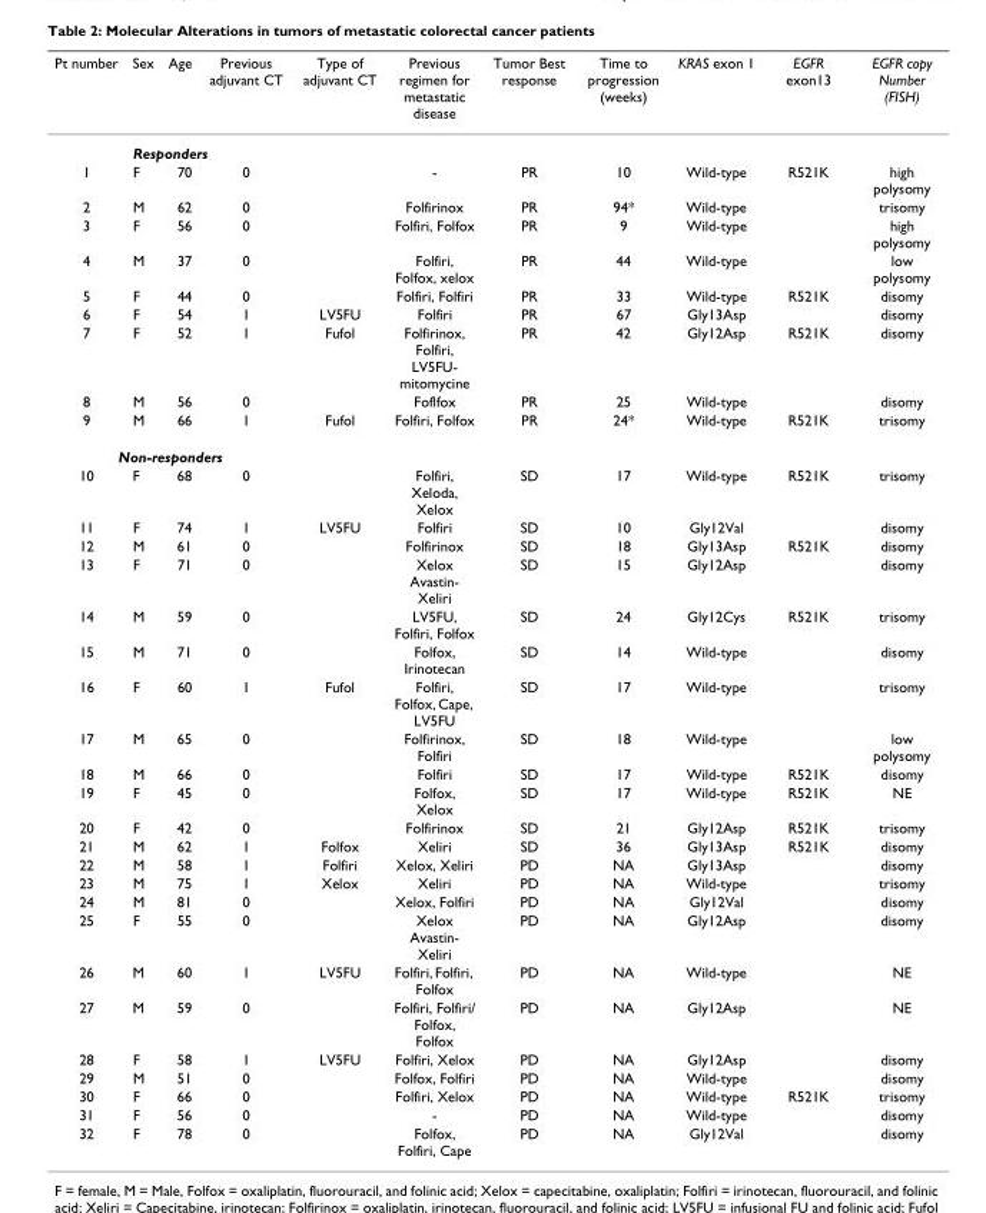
<table><thead><tr><td>Pt number</td><td>Sex</td><td>Age</td><td>Previous adjuvant CT</td><td>Type of adjuvant CT</td><td>Previous regimen for metastatic disease</td><td>Tumor Best response</td><td>Time to progression (weeks)</td><td>KRAS exon 1</td><td>EGFR exon13</td><td>EGFR copy Number (FISH)</td></tr></thead><tbody><tr><td colspan="11">Responders</td></tr><tr><td>1</td><td>F</td><td>70</td><td>0</td><td></td><td>-</td><td>PR</td><td>10</td><td>Wild-type</td><td>R521K</td><td>high polysomy</td></tr><tr><td>2</td><td>M</td><td>62</td><td>0</td><td></td><td>Folfirinox</td><td>PR</td><td>94*</td><td>Wild-type</td><td></td><td>trisomy</td></tr><tr><td>3</td><td>F</td><td>56</td><td>0</td><td></td><td>Folfiri, Folfox</td><td>PR</td><td>9</td><td>Wild-type</td><td></td><td>high polysomy</td></tr><tr><td>4</td><td>M</td><td>37</td><td>0</td><td></td><td>Folfiri, Folfox, xelox</td><td>PR</td><td>44</td><td>Wild-type</td><td></td><td>low polysomy</td></tr><tr><td>5</td><td>F</td><td>44</td><td>0</td><td></td><td>Folfiri, Folfiri</td><td>PR</td><td>33</td><td>Wild-type</td><td>R521K</td><td>disomy</td></tr><tr><td>6</td><td>F</td><td>54</td><td>1</td><td>LV5FU</td><td>Folfiri</td><td>PR</td><td>67</td><td>Gly13Asp</td><td></td><td>disomy</td></tr><tr><td>7</td><td>F</td><td>52</td><td>1</td><td>Fufol</td><td>Folfirinox, Folfiri, LV5FU- mitomycine</td><td>PR</td><td>42</td><td>Gly12Asp</td><td>R521K</td><td>disomy</td></tr><tr><td>8</td><td>M</td><td>56</td><td>0</td><td></td><td>Foflfox</td><td>PR</td><td>25</td><td>Wild-type</td><td></td><td>disomy</td></tr><tr><td>9</td><td>M</td><td>66</td><td>1</td><td>Fufol</td><td>Folfiri, Folfox</td><td>PR</td><td>24*</td><td>Wild-type</td><td>R521K</td><td>trisomy</td></tr><tr><td colspan="11">Non-responders</td></tr><tr><td>10</td><td>F</td><td>68</td><td>0</td><td></td><td>Folfiri, Xeloda, Xelox</td><td>SD</td><td>17</td><td>Wild-type</td><td>R521K</td><td>trisomy</td></tr><tr><td>11</td><td>F</td><td>74</td><td>1</td><td>LV5FU</td><td>Folfiri</td><td>SD</td><td>10</td><td>Gly12Val</td><td></td><td>disomy</td></tr><tr><td>12</td><td>M</td><td>61</td><td>0</td><td></td><td>Folfirinox</td><td>SD</td><td>18</td><td>Gly13Asp</td><td>R521K</td><td>disomy</td></tr><tr><td>13</td><td>F</td><td>71</td><td>0</td><td></td><td>Xelox Avastin- Xeliri</td><td>SD</td><td>15</td><td>Gly12Asp</td><td></td><td>disomy</td></tr><tr><td>14</td><td>M</td><td>59</td><td>0</td><td></td><td>LV5FU, Folfiri, Folfox</td><td>SD</td><td>24</td><td>Gly12Cys</td><td>R521K</td><td>trisomy</td></tr><tr><td>15</td><td>M</td><td>71</td><td>0</td><td></td><td>Folfox, Irinotecan</td><td>SD</td><td>14</td><td>Wild-type</td><td></td><td>disomy</td></tr><tr><td>16</td><td>F</td><td>60</td><td>1</td><td>Fufol</td><td>Folfiri, Folfox, Cape, LV5FU</td><td>SD</td><td>17</td><td>Wild-type</td><td></td><td>trisomy</td></tr><tr><td>17</td><td>M</td><td>65</td><td>0</td><td></td><td>Folfirinox, Folfiri</td><td>SD</td><td>18</td><td>Wild-type</td><td></td><td>low polysomy</td></tr><tr><td>18</td><td>M</td><td>66</td><td>0</td><td></td><td>Folfiri</td><td>SD</td><td>17</td><td>Wild-type</td><td>R521K</td><td>disomy</td></tr><tr><td>19</td><td>F</td><td>45</td><td>0</td><td></td><td>Folfox, Xelox</td><td>SD</td><td>17</td><td>Wild-type</td><td>R521K</td><td>NE</td></tr><tr><td>20</td><td>F</td><td>42</td><td>0</td><td></td><td>Folfirinox</td><td>SD</td><td>21</td><td>Gly12Asp</td><td>R521K</td><td>trisomy</td></tr><tr><td>21</td><td>M</td><td>62</td><td>1</td><td>Folfox</td><td>Xeliri</td><td>SD</td><td>36</td><td>Gly13Asp</td><td>R521K</td><td>disomy</td></tr><tr><td>22</td><td>M</td><td>58</td><td>1</td><td>Folfiri</td><td>Xelox, Xeliri</td><td>PD</td><td>NA</td><td>Gly13Asp</td><td></td><td>disomy</td></tr><tr><td>23</td><td>M</td><td>75</td><td>1</td><td>Xelox</td><td>Xeliri</td><td>PD</td><td>NA</td><td>Wild-type</td><td></td><td>trisomy</td></tr><tr><td>24</td><td>M</td><td>81</td><td>0</td><td></td><td>Xelox, Folfiri</td><td>PD</td><td>NA</td><td>Gly12Val</td><td></td><td>disomy</td></tr><tr><td>25</td><td>F</td><td>55</td><td>0</td><td></td><td>Xelox Avastin- Xeliri</td><td>PD</td><td>NA</td><td>Gly12Asp</td><td></td><td>disomy</td></tr><tr><td>26</td><td>M</td><td>60</td><td>1</td><td>LV5FU</td><td>Folfiri, Folfiri, Folfox</td><td>PD</td><td>NA</td><td>Wild-type</td><td></td><td>NE</td></tr><tr><td>27</td><td>M</td><td>59</td><td>0</td><td></td><td>Folfiri, Folfiri/ Folfox, Folfox</td><td>PD</td><td>NA</td><td>Gly12Asp</td><td></td><td>NE</td></tr><tr><td>28</td><td>F</td><td>58</td><td>1</td><td>LV5FU</td><td>Folfiri, Xelox</td><td>PD</td><td>NA</td><td>Gly12Asp</td><td></td><td>disomy</td></tr><tr><td>29</td><td>M</td><td>51</td><td>0</td><td></td><td>Folfox, Folfiri</td><td>PD</td><td>NA</td><td>Wild-type</td><td></td><td>disomy</td></tr><tr><td>30</td><td>F</td><td>66</td><td>0</td><td></td><td>Folfiri, Xelox</td><td>PD</td><td>NA</td><td>Wild-type</td><td>R521K</td><td>trisomy</td></tr><tr><td>31</td><td>F</td><td>56</td><td>0</td><td></td><td>-</td><td>PD</td><td>NA</td><td>Wild-type</td><td></td><td>disomy</td></tr><tr><td>32</td><td>F</td><td>78</td><td>0</td><td></td><td>Folfox, Folfiri, Cape</td><td>PD</td><td>NA</td><td>Gly12Val</td><td></td><td>disomy</td></tr></tbody></table>